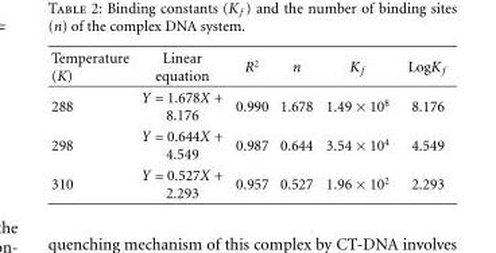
<table><thead><tr><td>Temperature (K)</td><td>Linear equation</td><td>R<sup>2</sup></td><td>n</td><td>K <sub>f</sub></td><td>LogK <sub>f</sub></td></tr></thead><tbody><tr><td>288</td><td>Y = 1.678X + 8.176</td><td>0.990</td><td>1.678</td><td>1.49 × 10<sup>8</sup></td><td>8.176</td></tr><tr><td>298</td><td>Y = 0.644X + 4.549</td><td>0.987</td><td>0.644</td><td>3.54 × 10<sup>4</sup></td><td>4.549</td></tr><tr><td>310</td><td>Y = 0.527X + 2.293</td><td>0.957</td><td>0.527</td><td>1.96 × 10<sup>2</sup></td><td>2.293</td></tr></tbody></table>